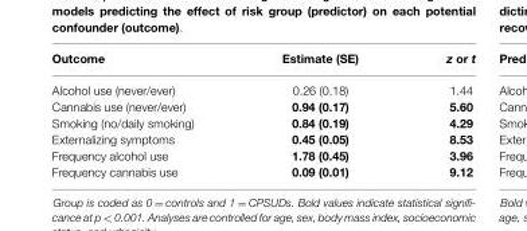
<table><thead><tr><td>Outcome</td><td>Estimate (SE)</td><td>z or t</td></tr></thead><tbody><tr><td>Alcohol use (never/ever)</td><td>0.26 (0.18)</td><td>1.44</td></tr><tr><td>Cannabis use (never/ever)</td><td>0.94 (0.17)</td><td>5.60</td></tr><tr><td>Smoking (no/daily smoking)</td><td>0.84 (0.19)</td><td>4.29</td></tr><tr><td>Externalizing symptoms</td><td>0.45 (0.05)</td><td>8.53</td></tr><tr><td>Frequency alcohol use</td><td>1.78 (0.45)</td><td>3.96</td></tr><tr><td>Frequency cannabis use</td><td>0.09 (0.01)</td><td>9.12</td></tr></tbody></table>